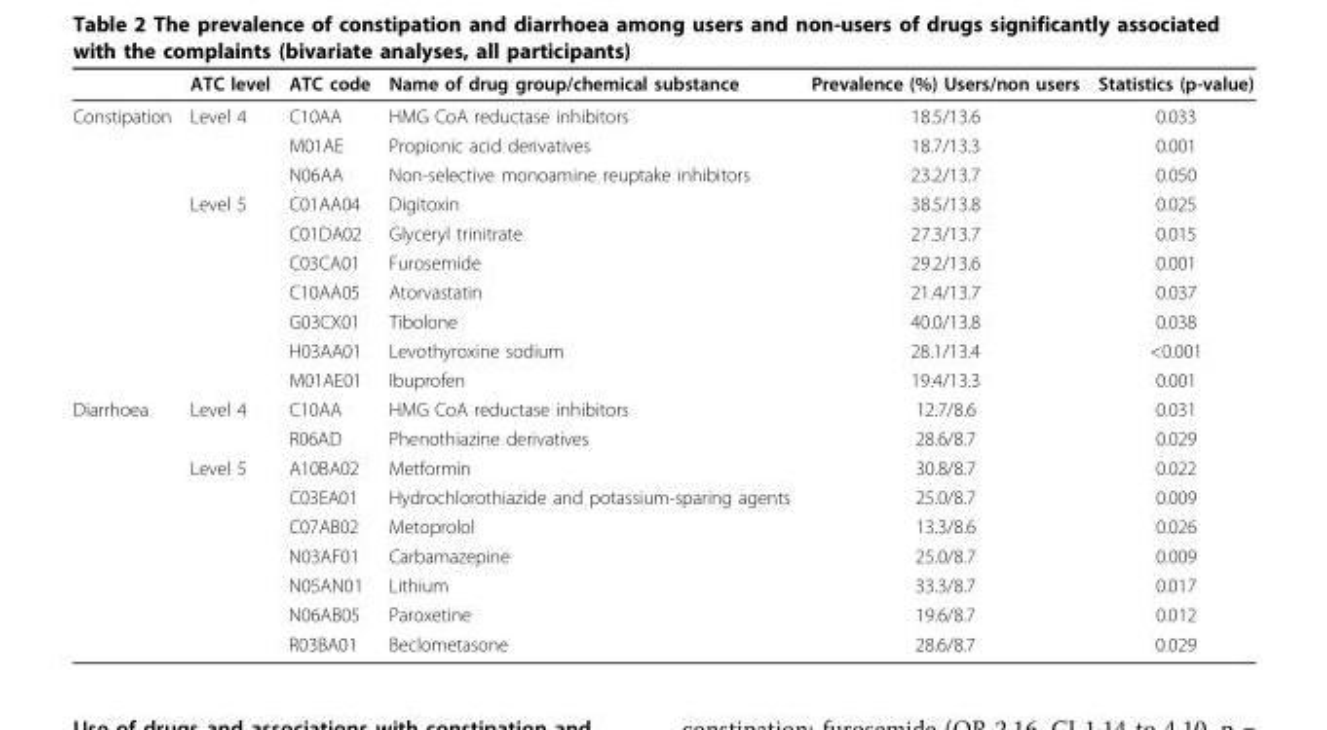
<table><thead><tr><td></td><td>ATC level</td><td>ATC code</td><td>Name of drug group/chemical substance</td><td>Prevalence (%) Users/non users</td><td>Statistics (p-value)</td></tr></thead><tbody><tr><td rowspan="10">Constipation</td><td>Level 4</td><td>C10AA</td><td>HMG CoA reductase inhibitors</td><td>18.5/13.6</td><td>0.033</td></tr><tr><td></td><td>M01AE</td><td>Propionic acid derivatives</td><td>18.7/13.3</td><td>0.001</td></tr><tr><td></td><td>N06AA</td><td>Non-selective monoamine reuptake inhibitors</td><td>23.2/13.7</td><td>0.050</td></tr><tr><td>Level 5</td><td>C01AA04</td><td>Digitoxin</td><td>38.5/13.8</td><td>0.025</td></tr><tr><td></td><td>C01DA02</td><td>Glyceryl trinitrate</td><td>27.3/13.7</td><td>0.015</td></tr><tr><td></td><td>C03CA01</td><td>Furosemide</td><td>29.2/13.6</td><td>0.001</td></tr><tr><td></td><td>C10AA05</td><td>Atorvastatin</td><td>21.4/13.7</td><td>0.037</td></tr><tr><td></td><td>G03CX01</td><td>Tibolone</td><td>40.0/13.8</td><td>0.038</td></tr><tr><td></td><td>H03AA01</td><td>Levothyroxine sodium</td><td>28.1/13.4</td><td>&lt;0.001</td></tr><tr><td></td><td>M01AE01</td><td>Ibuprofen</td><td>19.4/13.3</td><td>0.001</td></tr><tr><td rowspan="9">Diarrhoea</td><td>Level 4</td><td>C10AA</td><td>HMG CoA reductase inhibitors</td><td>12.7/8.6</td><td>0.031</td></tr><tr><td></td><td>R06AD</td><td>Phenothiazine derivatives</td><td>28.6/8.7</td><td>0.029</td></tr><tr><td>Level 5</td><td>A10BA02</td><td>Metformin</td><td>30.8/8.7</td><td>0.022</td></tr><tr><td></td><td>C03EA01</td><td>Hydrochlorothiazide and potassium-sparing agents</td><td>25.0/8.7</td><td>0.009</td></tr><tr><td></td><td>C07AB02</td><td>Metoprolol</td><td>13.3/8.6</td><td>0.026</td></tr><tr><td></td><td>N03AF01</td><td>Carbamazepine</td><td>25.0/8.7</td><td>0.009</td></tr><tr><td></td><td>N05AN01</td><td>Lithium</td><td>33.3/8.7</td><td>0.017</td></tr><tr><td></td><td>N06AB05</td><td>Paroxetine</td><td>19.6/8.7</td><td>0.012</td></tr><tr><td></td><td>R03BA01</td><td>Beclometasone</td><td>28.6/8.7</td><td>0.029</td></tr></tbody></table>